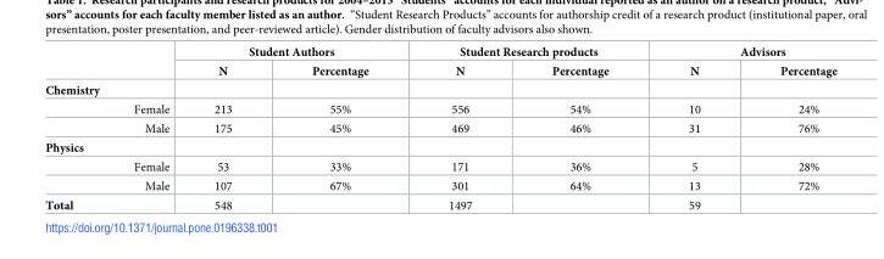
<table><thead><tr><td rowspan="2"></td><td colspan="2">Student Authors</td><td colspan="2">Student Research products</td><td colspan="2">Advisors</td></tr><tr><td>N</td><td>Percentage</td><td>N</td><td>Percentage</td><td>N</td><td>Percentage</td></tr></thead><tbody><tr><td colspan="7">Chemistry</td></tr><tr><td>Female</td><td>213</td><td>55%</td><td>556</td><td>54%</td><td>10</td><td>24%</td></tr><tr><td>Male</td><td>175</td><td>45%</td><td>469</td><td>46%</td><td>31</td><td>76%</td></tr><tr><td colspan="7">Physics</td></tr><tr><td>Female</td><td>53</td><td>33%</td><td>171</td><td>36%</td><td>5</td><td>28%</td></tr><tr><td>Male</td><td>107</td><td>67%</td><td>301</td><td>64%</td><td>13</td><td>72%</td></tr><tr><td>Total</td><td>548</td><td></td><td>1497</td><td></td><td>59</td><td></td></tr></tbody></table>